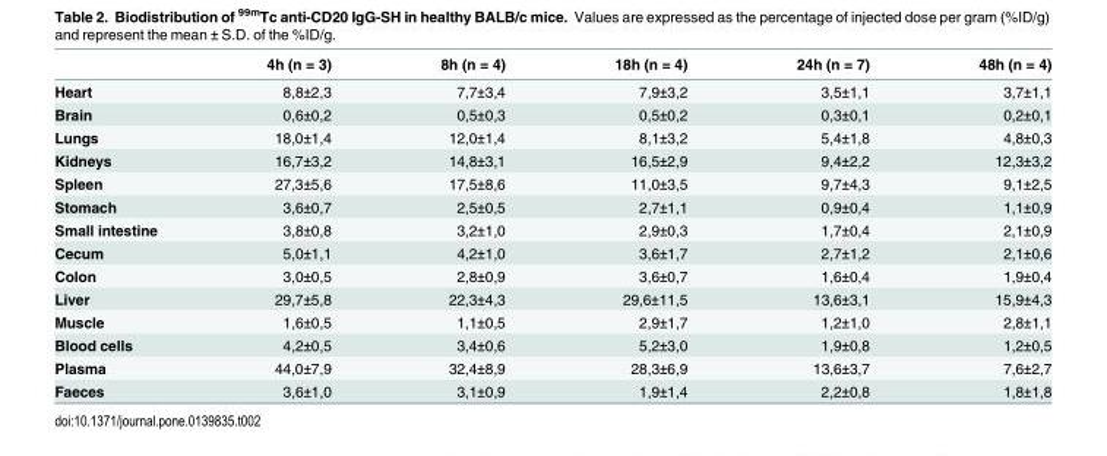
<table><thead><tr><td></td><td>4h (n = 3)</td><td>8h (n = 4)</td><td>18h (n = 4)</td><td>24h (n = 7)</td><td>48h (n = 4)</td></tr></thead><tbody><tr><td>Heart</td><td>8,8±2,3</td><td>7,7±3,4</td><td>7,9±3,2</td><td>3,5±1,1</td><td>3,7±1,1</td></tr><tr><td>Brain</td><td>0,6±0,2</td><td>0,5±0,3</td><td>0,5±0,2</td><td>0,3±0,1</td><td>0,2±0,1</td></tr><tr><td>Lungs</td><td>18,0±1,4</td><td>12,0±1,4</td><td>8,1±3,2</td><td>5,4±1,8</td><td>4,8±0,3</td></tr><tr><td>Kidneys</td><td>16,7±3,2</td><td>14,8±3,1</td><td>16,5±2,9</td><td>9,4±2,2</td><td>12,3±3,2</td></tr><tr><td>Spleen</td><td>27,3±5,6</td><td>17,5±8,6</td><td>11,0±3,5</td><td>9,7±4,3</td><td>9,1±2,5</td></tr><tr><td>Stomach</td><td>3,6±0,7</td><td>2,5±0,5</td><td>2,7±1,1</td><td>0,9±0,4</td><td>1,1±0,9</td></tr><tr><td>Small intestine</td><td>3,8±0,8</td><td>3,2±1,0</td><td>2,9±0,3</td><td>1,7±0,4</td><td>2,1±0,9</td></tr><tr><td>Cecum</td><td>5,0±1,1</td><td>4,2±1,0</td><td>3,6±1,7</td><td>2,7±1,2</td><td>2,1±0,6</td></tr><tr><td>Colon</td><td>3,0±0,5</td><td>2,8±0,9</td><td>3,6±0,7</td><td>1,6±0,4</td><td>1,9±0,4</td></tr><tr><td>Liver</td><td>29,7±5,8</td><td>22,3±4,3</td><td>29,6±11,5</td><td>13,6±3,1</td><td>15,9±4,3</td></tr><tr><td>Muscle</td><td>1,6±0,5</td><td>1,1±0,5</td><td>2,9±1,7</td><td>1,2±1,0</td><td>2,8±1,1</td></tr><tr><td>Blood cells</td><td>4,2±0,5</td><td>3,4±0,6</td><td>5,2±3,0</td><td>1,9±0,8</td><td>1,2±0,5</td></tr><tr><td>Plasma</td><td>44,0±7,9</td><td>32,4±8,9</td><td>28,3±6,9</td><td>13,6±3,7</td><td>7,6±2,7</td></tr><tr><td>Faeces</td><td>3,6±1,0</td><td>3,1±0,9</td><td>1,9±1,4</td><td>2,2±0,8</td><td>1,8±1,8</td></tr></tbody></table>